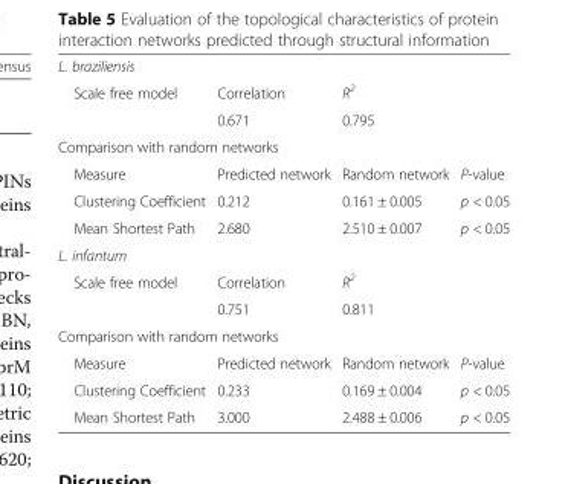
<table><tbody><tr><td colspan="4">L. braziliensis</td></tr><tr><td rowspan="2">Scale free model</td><td>Correlation</td><td colspan="2">R<sup>2</sup></td></tr><tr><td>0.671</td><td colspan="2">0.795</td></tr><tr><td colspan="4">Comparison with random networks</td></tr><tr><td>Measure</td><td>Predicted network</td><td>Random network</td><td>P-value</td></tr><tr><td>Clustering Coefficient</td><td>0.212</td><td>0.161 ± 0.005</td><td>p &lt; 0.05</td></tr><tr><td>Mean Shortest Path</td><td>2.680</td><td>2.510 ± 0.007</td><td>p &lt; 0.05</td></tr><tr><td colspan="4">L. infantum</td></tr><tr><td rowspan="2">Scale free model</td><td>Correlation</td><td colspan="2">R<sup>2</sup></td></tr><tr><td>0.751</td><td colspan="2">0.811</td></tr><tr><td colspan="4">Comparison with random networks</td></tr><tr><td>Measure</td><td>Predicted network</td><td>Random network</td><td>P-value</td></tr><tr><td>Clustering Coefficient</td><td>0.233</td><td>0.169 ± 0.004</td><td>p &lt; 0.05</td></tr><tr><td>Mean Shortest Path</td><td>3.000</td><td>2.488 ± 0.006</td><td>p &lt; 0.05</td></tr></tbody></table>